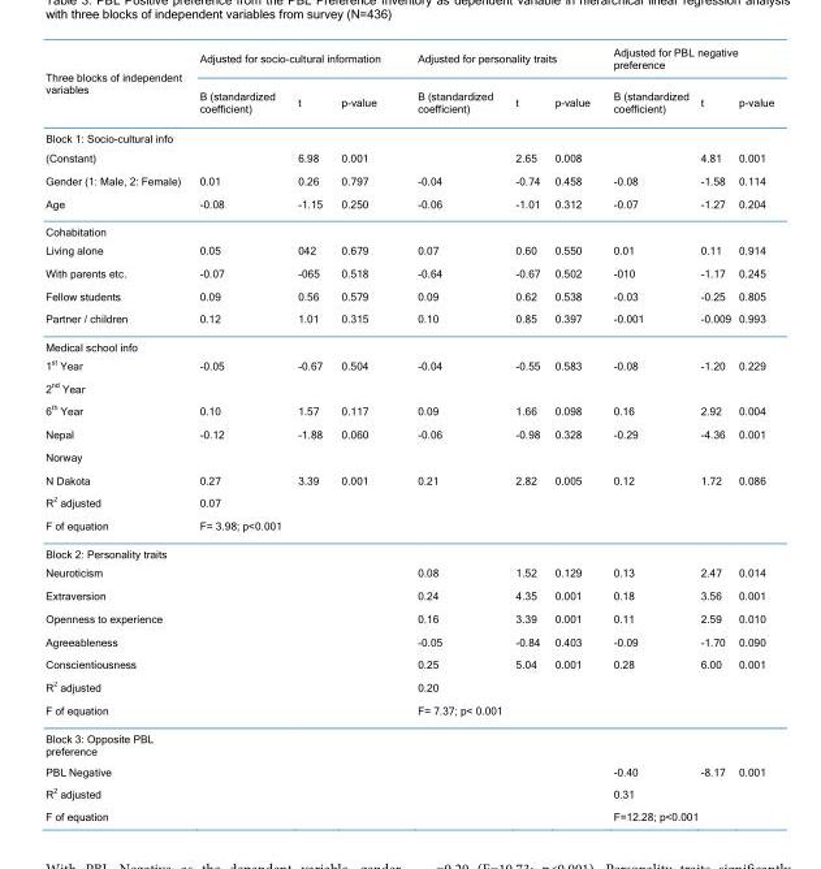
<table><thead><tr><td rowspan="2">Three blocks of independent variables</td><td colspan="3">Adjusted for socio-cultural information</td><td colspan="3">Adjusted for personality traits</td><td colspan="3">Adjusted for PBL negative preference</td></tr><tr><td>Β (standardized coefficient)</td><td>t</td><td>p-value</td><td>Β (standardized coefficient)</td><td>t</td><td>p-value</td><td>Β (standardized coefficient)</td><td>t</td><td>p-value</td></tr></thead><tbody><tr><td colspan="10">Block 1: Socio-cultural info</td></tr><tr><td>(Constant)</td><td></td><td>6.98</td><td>0.001</td><td></td><td>2.65</td><td>0.008</td><td></td><td>4.81</td><td>0.001</td></tr><tr><td>Gender (1: Male, 2: Female)</td><td>0.01</td><td>0.26</td><td>0.797</td><td>-0.04</td><td>-0.74</td><td>0.458</td><td>-0.08</td><td>-1.58</td><td>0.114</td></tr><tr><td>Age</td><td>-0.08</td><td>-1.15</td><td>0.250</td><td>-0.06</td><td>-1.01</td><td>0.312</td><td>-0.07</td><td>-1.27</td><td>0.204</td></tr><tr><td colspan="10">Cohabitation</td></tr><tr><td>Living alone</td><td>0.05</td><td>042</td><td>0.679</td><td>0.07</td><td>0.60</td><td>0.550</td><td>0.01</td><td>0.11</td><td>0.914</td></tr><tr><td>With parents etc.</td><td>-0.07</td><td>-065</td><td>0.518</td><td>-0.64</td><td>-0.67</td><td>0.502</td><td>-010</td><td>-1.17</td><td>0.245</td></tr><tr><td>Fellow students</td><td>0.09</td><td>0.56</td><td>0.579</td><td>0.09</td><td>0.62</td><td>0.538</td><td>-0.03</td><td>-0.25</td><td>0.805</td></tr><tr><td>Partner / children</td><td>0.12</td><td>1.01</td><td>0.315</td><td>0.10</td><td>0.85</td><td>0.397</td><td>-0.001</td><td>-0.009</td><td>0.993</td></tr><tr><td colspan="10">Medical school info</td></tr><tr><td>1<sup>st</sup> Year</td><td>-0.05</td><td>-0.67</td><td>0.504</td><td>-0.04</td><td>-0.55</td><td>0.583</td><td>-0.08</td><td>-1.20</td><td>0.229</td></tr><tr><td colspan="10">2<sup>nd</sup> Year</td></tr><tr><td>6<sup>th</sup> Year</td><td>0.10</td><td>1.57</td><td>0.117</td><td>0.09</td><td>1.66</td><td>0.098</td><td>0.16</td><td>2.92</td><td>0.004</td></tr><tr><td>Nepal</td><td>-0.12</td><td>-1.88</td><td>0.060</td><td>-0.06</td><td>-0.98</td><td>0.328</td><td>-0.29</td><td>-4.36</td><td>0.001</td></tr><tr><td colspan="10">Norway</td></tr><tr><td>N Dakota</td><td>0.27</td><td>3.39</td><td>0.001</td><td>0.21</td><td>2.82</td><td>0.005</td><td>0.12</td><td>1.72</td><td>0.086</td></tr><tr><td>R<sup>2</sup> adjusted</td><td>0.07</td><td></td><td></td><td></td><td></td><td></td><td></td><td></td><td></td></tr><tr><td>F of equation</td><td>F= 3.98; p&lt;0.001</td><td></td><td></td><td></td><td></td><td></td><td></td><td></td><td></td></tr><tr><td colspan="10">Block 2: Personality traits</td></tr><tr><td>Neuroticism</td><td></td><td></td><td></td><td>0.08</td><td>1.52</td><td>0.129</td><td>0.13</td><td>2.47</td><td>0.014</td></tr><tr><td>Extraversion</td><td></td><td></td><td></td><td>0.24</td><td>4.35</td><td>0.001</td><td>0.18</td><td>3.56</td><td>0.001</td></tr><tr><td>Openness to experience</td><td></td><td></td><td></td><td>0.16</td><td>3.39</td><td>0.001</td><td>0.11</td><td>2.59</td><td>0.010</td></tr><tr><td>Agreeableness</td><td></td><td></td><td></td><td>-0.05</td><td>-0.84</td><td>0.403</td><td>-0.09</td><td>-1.70</td><td>0.090</td></tr><tr><td>Conscientiousness</td><td></td><td></td><td></td><td>0.25</td><td>5.04</td><td>0.001</td><td>0.28</td><td>6.00</td><td>0.001</td></tr><tr><td>R<sup>2</sup> adjusted</td><td></td><td></td><td></td><td>0.20</td><td></td><td></td><td></td><td></td><td></td></tr><tr><td>F of equation</td><td></td><td></td><td></td><td>F= 7.37; p&lt; 0.001</td><td></td><td></td><td></td><td></td><td></td></tr><tr><td colspan="10">Block 3: Opposite PBL preference</td></tr><tr><td>PBL Negative</td><td></td><td></td><td></td><td></td><td></td><td></td><td>-0.40</td><td>-8.17</td><td>0.001</td></tr><tr><td>R<sup>2</sup> adjusted</td><td></td><td></td><td></td><td></td><td></td><td></td><td>0.31</td><td></td><td></td></tr><tr><td>F of equation</td><td></td><td></td><td></td><td></td><td></td><td></td><td>F=12.28; p&lt;0.001</td><td></td><td></td></tr></tbody></table>